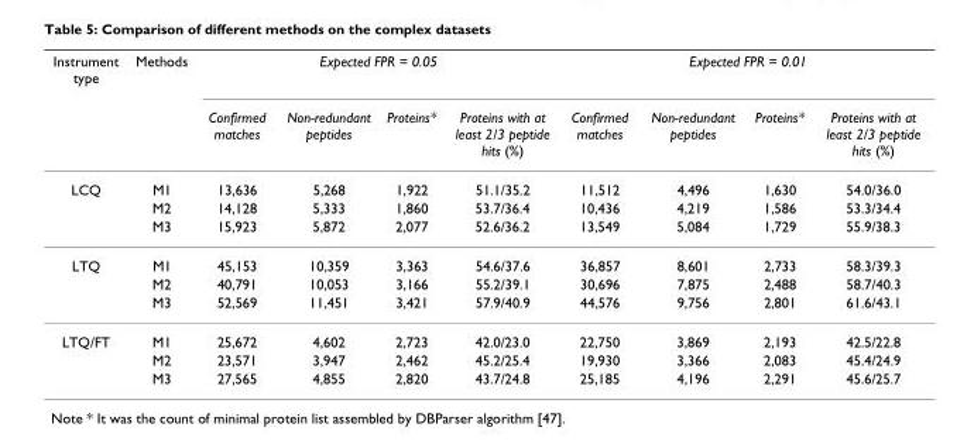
<table><thead><tr><td rowspan="2">Instrument type</td><td rowspan="2">Methods</td><td colspan="4">Expected FPR = 0.05</td><td colspan="4">Expected FPR = 0.01</td></tr><tr><td>Confirmed matches</td><td>Non-redundant peptides</td><td>Proteins*</td><td>Proteins with at least 2/3 peptide hits (%)</td><td>Confirmed matches</td><td>Non-redundant peptides</td><td>Proteins*</td><td>Proteins with at least 2/3 peptide hits (%)</td></tr></thead><tbody><tr><td rowspan="3">LCQ</td><td>M1</td><td>13,636</td><td>5,268</td><td>1,922</td><td>51.1/35.2</td><td>11,512</td><td>4,496</td><td>1,630</td><td>54.0/36.0</td></tr><tr><td>M2</td><td>14,128</td><td>5,333</td><td>1,860</td><td>53.7/36.4</td><td>10,436</td><td>4,219</td><td>1,586</td><td>53.3/34.4</td></tr><tr><td>M3</td><td>15,923</td><td>5,872</td><td>2,077</td><td>52.6/36.2</td><td>13,549</td><td>5,084</td><td>1,729</td><td>55.9/38.3</td></tr><tr><td rowspan="3">LTQ</td><td>M1</td><td>45,153</td><td>10,359</td><td>3,363</td><td>54.6/37.6</td><td>36,857</td><td>8,601</td><td>2,733</td><td>58.3/39.3</td></tr><tr><td>M2</td><td>40,791</td><td>10,053</td><td>3,166</td><td>55.2/39.1</td><td>30,696</td><td>7,875</td><td>2,488</td><td>58.7/40.3</td></tr><tr><td>M3</td><td>52,569</td><td>11,451</td><td>3,421</td><td>57.9/40.9</td><td>44,576</td><td>9,756</td><td>2,801</td><td>61.6/43.1</td></tr><tr><td rowspan="3">LTQ/FT</td><td>M1</td><td>25,672</td><td>4,602</td><td>2,723</td><td>42.0/23.0</td><td>22,750</td><td>3,869</td><td>2,193</td><td>42.5/22.8</td></tr><tr><td>M2</td><td>23,571</td><td>3,947</td><td>2,462</td><td>45.2/25.4</td><td>19,930</td><td>3,366</td><td>2,083</td><td>45.4/24.9</td></tr><tr><td>M3</td><td>27,565</td><td>4,855</td><td>2,820</td><td>43.7/24.8</td><td>25,185</td><td>4,196</td><td>2,291</td><td>45.6/25.7</td></tr></tbody></table>